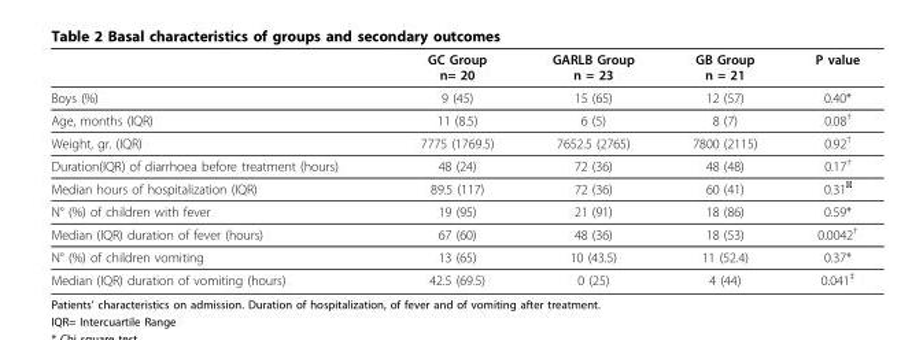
<table><thead><tr><td></td><td>GC Group n= 20</td><td>GARLB Group n = 23</td><td>GB Group n = 21</td><td>P value</td></tr></thead><tbody><tr><td>Boys (%)</td><td>9 (45)</td><td>15 (65)</td><td>12 (57)</td><td>0.40*</td></tr><tr><td>Age, months (IQR)</td><td>11 (8.5)</td><td>6 (5)</td><td>8 (7)</td><td>0.08<sup>†</sup></td></tr><tr><td>Weight, gr. (IQR)</td><td>7775 (1769.5)</td><td>7652.5 (2765)</td><td>7800 (2115)</td><td>0.92<sup>†</sup></td></tr><tr><td>Duration(IQR) of diarrhoea before treatment (hours)</td><td>48 (24)</td><td>72 (36)</td><td>48 (48)</td><td>0.17<sup>†</sup></td></tr><tr><td>Median hours of hospitalization (IQR)</td><td>89.5 (117)</td><td>72 (36)</td><td>60 (41)</td><td>0.31<sup>₤</sup></td></tr><tr><td>N° (%) of children with fever</td><td>19 (95)</td><td>21 (91)</td><td>18 (86)</td><td>0.59*</td></tr><tr><td>Median (IQR) duration of fever (hours)</td><td>67 (60)</td><td>48 (36)</td><td>18 (53)</td><td>0.0042<sup>†</sup></td></tr><tr><td>N° (%) of children vomiting</td><td>13 (65)</td><td>10 (43.5)</td><td>11 (52.4)</td><td>0.37*</td></tr><tr><td>Median (IQR) duration of vomiting (hours)</td><td>42.5 (69.5)</td><td>0 (25)</td><td>4 (44)</td><td>0.041<sup>‡</sup></td></tr></tbody></table>